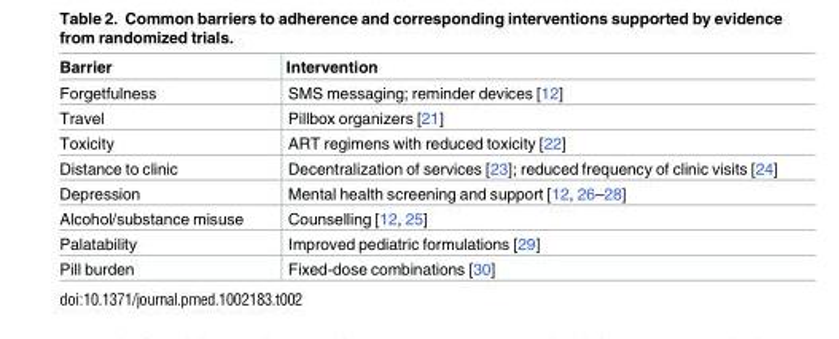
<table><thead><tr><td>Barrier</td><td>Intervention</td></tr></thead><tbody><tr><td>Forgetfulness</td><td>SMS messaging; reminder devices [12]</td></tr><tr><td>Travel</td><td>Pillbox organizers [21]</td></tr><tr><td>Toxicity</td><td>ART regimens with reduced toxicity [22]</td></tr><tr><td>Distance to clinic</td><td>Decentralization of services [23]; reduced frequency of clinic visits [24]</td></tr><tr><td>Depression</td><td>Mental health screening and support [12, 26–28]</td></tr><tr><td>Alcohol/substance misuse</td><td>Counselling [12, 25]</td></tr><tr><td>Palatability</td><td>Improved pediatric formulations [29]</td></tr><tr><td>Pill burden</td><td>Fixed-dose combinations [30]</td></tr></tbody></table>